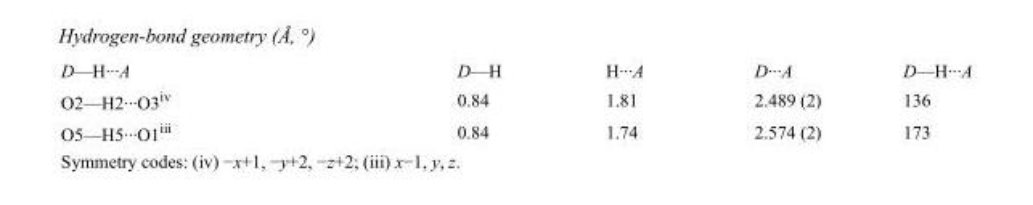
<table><tbody><tr><td>D—H···A</td><td>D—H</td><td>H···A</td><td>D···A</td><td>D—H···A</td></tr><tr><td>O2—H2···O3<sup>iv</sup></td><td>0.84</td><td>1.81</td><td>2.489 (2)</td><td>136</td></tr><tr><td>O5—H5···O1<sup>iii</sup></td><td>0.84</td><td>1.74</td><td>2.574 (2)</td><td>173</td></tr></tbody></table>